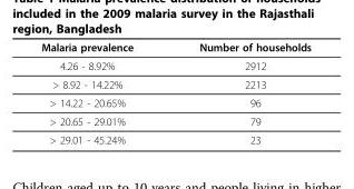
<table><thead><tr><td>Malaria prevalence</td><td>Number of households</td></tr></thead><tbody><tr><td>4.26 - 8.92%</td><td>2912</td></tr><tr><td>&gt; 8.92 - 14.22%</td><td>2213</td></tr><tr><td>&gt; 14.22 - 20.65%</td><td>96</td></tr><tr><td>&gt; 20.65 - 29.01%</td><td>79</td></tr><tr><td>&gt; 29.01 - 45.24%</td><td>23</td></tr></tbody></table>